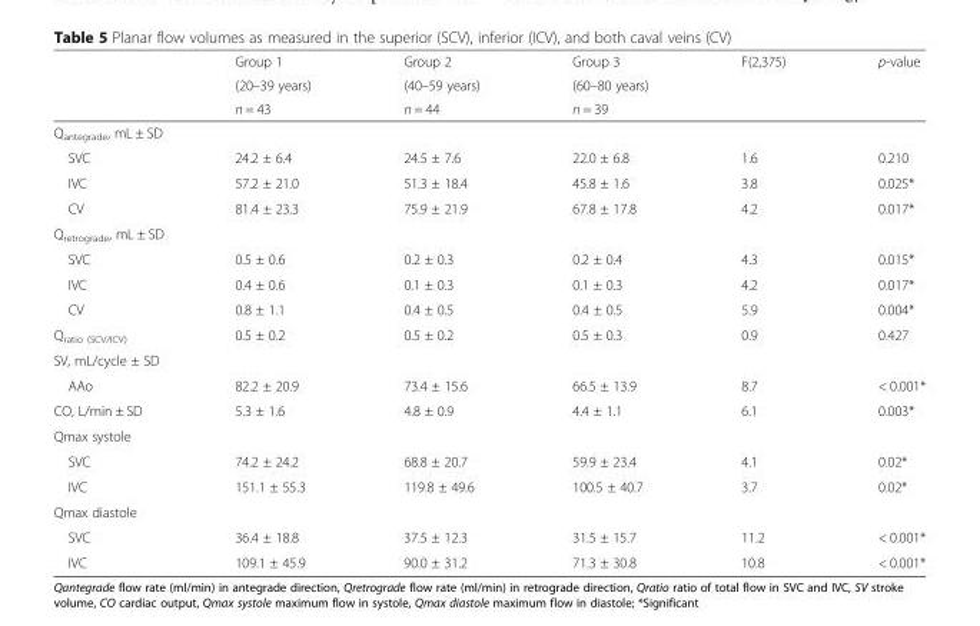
<table><thead><tr><td rowspan="3"></td><td rowspan="3">Group 1 (20–39 years) n = 43</td><td rowspan="3">Group 2 (40–59 years) n = 44</td><td rowspan="3">Group 3 (60–80 years) n = 39</td><td rowspan="3">F(2,375)</td><td rowspan="3">p-value</td></tr><tr></tr><tr></tr></thead><tbody><tr><td colspan="6">Q<sub>antegrade</sub>, mL ± SD</td></tr><tr><td>SVC</td><td>24.2 ± 6.4</td><td>24.5 ± 7.6</td><td>22.0 ± 6.8</td><td>1.6</td><td>0.210</td></tr><tr><td>IVC</td><td>57.2 ± 21.0</td><td>51.3 ± 18.4</td><td>45.8 ± 1.6</td><td>3.8</td><td>0.025*</td></tr><tr><td>CV</td><td>81.4 ± 23.3</td><td>75.9 ± 21.9</td><td>67.8 ± 17.8</td><td>4.2</td><td>0.017*</td></tr><tr><td colspan="6">Q<sub>retrograde</sub>, mL ± SD</td></tr><tr><td>SVC</td><td>0.5 ± 0.6</td><td>0.2 ± 0.3</td><td>0.2 ± 0.4</td><td>4.3</td><td>0.015*</td></tr><tr><td>IVC</td><td>0.4 ± 0.6</td><td>0.1 ± 0.3</td><td>0.1 ± 0.3</td><td>4.2</td><td>0.017*</td></tr><tr><td>CV</td><td>0.8 ± 1.1</td><td>0.4 ± 0.5</td><td>0.4 ± 0.5</td><td>5.9</td><td>0.004*</td></tr><tr><td>Q<sub>ratio (SCV/ICV)</sub></td><td>0.5 ± 0.2</td><td>0.5 ± 0.2</td><td>0.5 ± 0.3</td><td>0.9</td><td>0.427</td></tr><tr><td colspan="6">SV, mL/cycle ± SD</td></tr><tr><td>AAo</td><td>82.2 ± 20.9</td><td>73.4 ± 15.6</td><td>66.5 ± 13.9</td><td>8.7</td><td>&lt; 0.001*</td></tr><tr><td>CO, L/min ± SD</td><td>5.3 ± 1.6</td><td>4.8 ± 0.9</td><td>4.4 ± 1.1</td><td>6.1</td><td>0.003*</td></tr><tr><td colspan="6">Qmax systole</td></tr><tr><td>SVC</td><td>74.2 ± 24.2</td><td>68.8 ± 20.7</td><td>59.9 ± 23.4</td><td>4.1</td><td>0.02*</td></tr><tr><td>IVC</td><td>151.1 ± 55.3</td><td>119.8 ± 49.6</td><td>100.5 ± 40.7</td><td>3.7</td><td>0.02*</td></tr><tr><td colspan="6">Qmax diastole</td></tr><tr><td>SVC</td><td>36.4 ± 18.8</td><td>37.5 ± 12.3</td><td>31.5 ± 15.7</td><td>11.2</td><td>&lt; 0.001*</td></tr><tr><td>IVC</td><td>109.1 ± 45.9</td><td>90.0 ± 31.2</td><td>71.3 ± 30.8</td><td>10.8</td><td>&lt; 0.001*</td></tr></tbody></table>